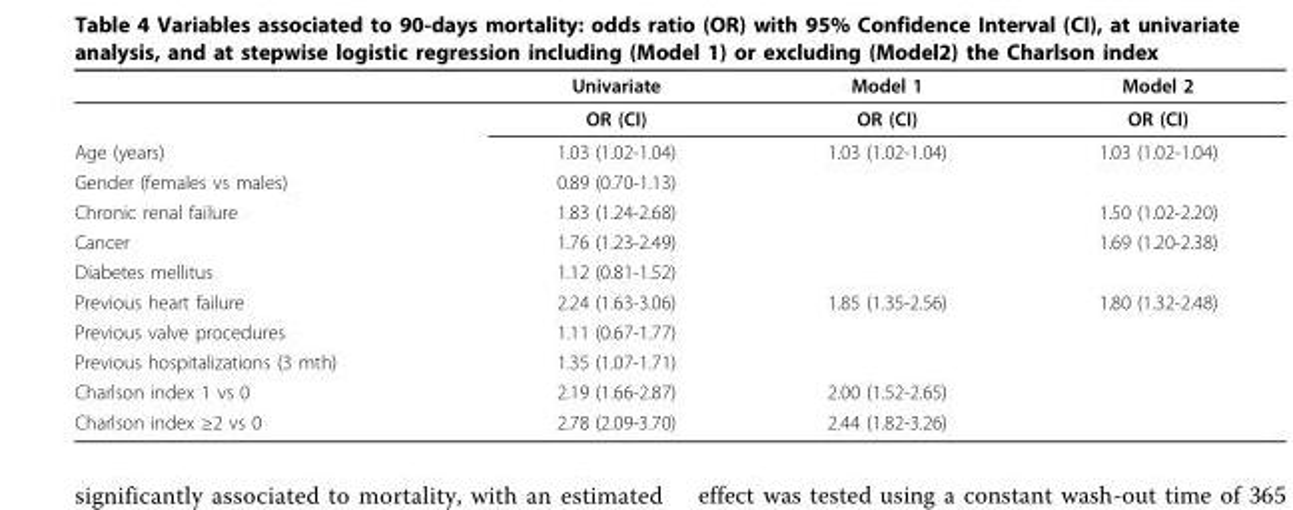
<table><thead><tr><td></td><td>Univariate</td><td>Model 1</td><td>Model 2</td></tr></thead><tbody><tr><td></td><td>OR (CI)</td><td>OR (CI)</td><td>OR (CI)</td></tr><tr><td>Age (years)</td><td>1.03 (1.02-1.04)</td><td>1.03 (1.02-1.04)</td><td>1.03 (1.02-1.04)</td></tr><tr><td>Gender (females vs males)</td><td>0.89 (0.70-1.13)</td><td></td><td></td></tr><tr><td>Chronic renal failure</td><td>1.83 (1.24-2.68)</td><td></td><td>1.50 (1.02-2.20)</td></tr><tr><td>Cancer</td><td>1.76 (1.23-2.49)</td><td></td><td>1.69 (1.20-2.38)</td></tr><tr><td>Diabetes mellitus</td><td>1.12 (0.81-1.52)</td><td></td><td></td></tr><tr><td>Previous heart failure</td><td>2.24 (1.63-3.06)</td><td>1.85 (1.35-2.56)</td><td>1.80 (1.32-2.48)</td></tr><tr><td>Previous valve procedures</td><td>1.11 (0.67-1.77)</td><td></td><td></td></tr><tr><td>Previous hospitalizations (3 mth)</td><td>1.35 (1.07-1.71)</td><td></td><td></td></tr><tr><td>Charlson index 1 vs 0</td><td>2.19 (1.66-2.87)</td><td>2.00 (1.52-2.65)</td><td></td></tr><tr><td>Charlson index ≥2 vs 0</td><td>2.78 (2.09-3.70)</td><td>2.44 (1.82-3.26)</td><td></td></tr></tbody></table>